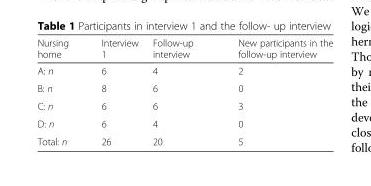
<table><thead><tr><td>Nursing home</td><td>Interview 1</td><td>Follow-up interview</td><td>New participants in the follow-up interview</td></tr></thead><tbody><tr><td>A: n</td><td>6</td><td>4</td><td>2</td></tr><tr><td>B: n</td><td>8</td><td>6</td><td>0</td></tr><tr><td>C: n</td><td>6</td><td>6</td><td>3</td></tr><tr><td>D: n</td><td>6</td><td>4</td><td>0</td></tr><tr><td>Total: n</td><td>26</td><td>20</td><td>5</td></tr></tbody></table>